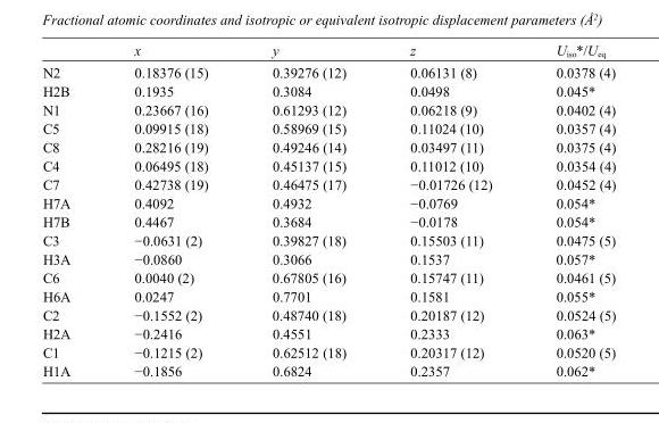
<table><thead><tr><td></td><td>x</td><td>y</td><td>z</td><td>U<sub>iso</sub>*/U<sub>eq</sub></td></tr></thead><tbody><tr><td>N2</td><td>0.18376 (15)</td><td>0.39276 (12)</td><td>0.06131 (8)</td><td>0.0378 (4)</td></tr><tr><td>H2B</td><td>0.1935</td><td>0.3084</td><td>0.0498</td><td>0.045*</td></tr><tr><td>N1</td><td>0.23667 (16)</td><td>0.61293 (12)</td><td>0.06218 (9)</td><td>0.0402 (4)</td></tr><tr><td>C5</td><td>0.09915 (18)</td><td>0.58969 (15)</td><td>0.11024 (10)</td><td>0.0357 (4)</td></tr><tr><td>C8</td><td>0.28216 (19)</td><td>0.49246 (14)</td><td>0.03497 (11)</td><td>0.0375 (4)</td></tr><tr><td>C4</td><td>0.06495 (18)</td><td>0.45137 (15)</td><td>0.11012 (10)</td><td>0.0354 (4)</td></tr><tr><td>C7</td><td>0.42738 (19)</td><td>0.46475 (17)</td><td>−0.01726 (12)</td><td>0.0452 (4)</td></tr><tr><td>H7A</td><td>0.4092</td><td>0.4932</td><td>−0.0769</td><td>0.054*</td></tr><tr><td>H7B</td><td>0.4467</td><td>0.3684</td><td>−0.0178</td><td>0.054*</td></tr><tr><td>C3</td><td>−0.0631 (2)</td><td>0.39827 (18)</td><td>0.15503 (11)</td><td>0.0475 (5)</td></tr><tr><td>H3A</td><td>−0.0860</td><td>0.3066</td><td>0.1537</td><td>0.057*</td></tr><tr><td>C6</td><td>0.0040 (2)</td><td>0.67805 (16)</td><td>0.15747 (11)</td><td>0.0461 (5)</td></tr><tr><td>H6A</td><td>0.0247</td><td>0.7701</td><td>0.1581</td><td>0.055*</td></tr><tr><td>C2</td><td>−0.1552 (2)</td><td>0.48740 (18)</td><td>0.20187 (12)</td><td>0.0524 (5)</td></tr><tr><td>H2A</td><td>−0.2416</td><td>0.4551</td><td>0.2333</td><td>0.063*</td></tr><tr><td>C1</td><td>−0.1215 (2)</td><td>0.62512 (18)</td><td>0.20317 (12)</td><td>0.0520 (5)</td></tr><tr><td>H1A</td><td>−0.1856</td><td>0.6824</td><td>0.2357</td><td>0.062*</td></tr></tbody></table>